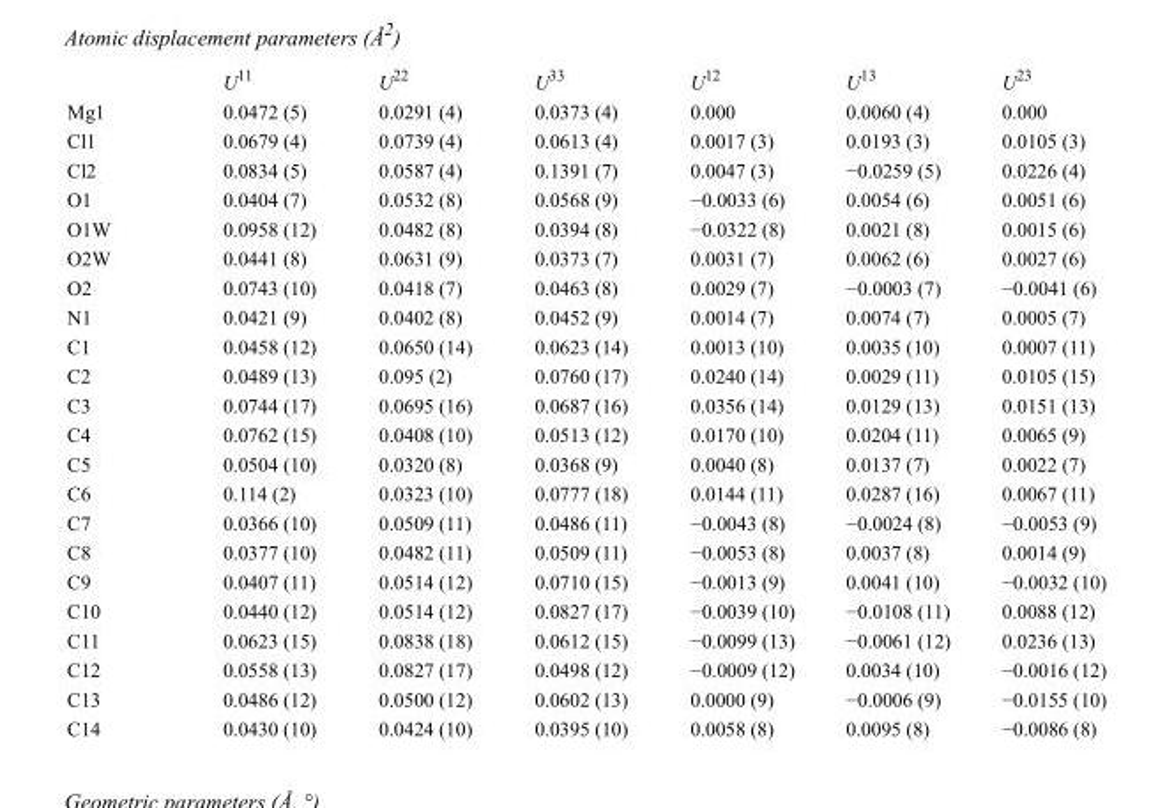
<table><thead><tr><td></td><td>U<sup>11</sup></td><td>U<sup>22</sup></td><td>U<sup>33</sup></td><td>U<sup>12</sup></td><td>U<sup>13</sup></td><td>U<sup>23</sup></td></tr></thead><tbody><tr><td>Mg1</td><td>0.0472 (5)</td><td>0.0291 (4)</td><td>0.0373 (4)</td><td>0.000</td><td>0.0060 (4)</td><td>0.000</td></tr><tr><td>Cl1</td><td>0.0679 (4)</td><td>0.0739 (4)</td><td>0.0613 (4)</td><td>0.0017 (3)</td><td>0.0193 (3)</td><td>0.0105 (3)</td></tr><tr><td>Cl2</td><td>0.0834 (5)</td><td>0.0587 (4)</td><td>0.1391 (7)</td><td>0.0047 (3)</td><td>−0.0259 (5)</td><td>0.0226 (4)</td></tr><tr><td>O1</td><td>0.0404 (7)</td><td>0.0532 (8)</td><td>0.0568 (9)</td><td>−0.0033 (6)</td><td>0.0054 (6)</td><td>0.0051 (6)</td></tr><tr><td>O1W</td><td>0.0958 (12)</td><td>0.0482 (8)</td><td>0.0394 (8)</td><td>−0.0322 (8)</td><td>0.0021 (8)</td><td>0.0015 (6)</td></tr><tr><td>O2W</td><td>0.0441 (8)</td><td>0.0631 (9)</td><td>0.0373 (7)</td><td>0.0031 (7)</td><td>0.0062 (6)</td><td>0.0027 (6)</td></tr><tr><td>O2</td><td>0.0743 (10)</td><td>0.0418 (7)</td><td>0.0463 (8)</td><td>0.0029 (7)</td><td>−0.0003 (7)</td><td>−0.0041 (6)</td></tr><tr><td>N1</td><td>0.0421 (9)</td><td>0.0402 (8)</td><td>0.0452 (9)</td><td>0.0014 (7)</td><td>0.0074 (7)</td><td>0.0005 (7)</td></tr><tr><td>C1</td><td>0.0458 (12)</td><td>0.0650 (14)</td><td>0.0623 (14)</td><td>0.0013 (10)</td><td>0.0035 (10)</td><td>0.0007 (11)</td></tr><tr><td>C2</td><td>0.0489 (13)</td><td>0.095 (2)</td><td>0.0760 (17)</td><td>0.0240 (14)</td><td>0.0029 (11)</td><td>0.0105 (15)</td></tr><tr><td>C3</td><td>0.0744 (17)</td><td>0.0695 (16)</td><td>0.0687 (16)</td><td>0.0356 (14)</td><td>0.0129 (13)</td><td>0.0151 (13)</td></tr><tr><td>C4</td><td>0.0762 (15)</td><td>0.0408 (10)</td><td>0.0513 (12)</td><td>0.0170 (10)</td><td>0.0204 (11)</td><td>0.0065 (9)</td></tr><tr><td>C5</td><td>0.0504 (10)</td><td>0.0320 (8)</td><td>0.0368 (9)</td><td>0.0040 (8)</td><td>0.0137 (7)</td><td>0.0022 (7)</td></tr><tr><td>C6</td><td>0.114 (2)</td><td>0.0323 (10)</td><td>0.0777 (18)</td><td>0.0144 (11)</td><td>0.0287 (16)</td><td>0.0067 (11)</td></tr><tr><td>C7</td><td>0.0366 (10)</td><td>0.0509 (11)</td><td>0.0486 (11)</td><td>−0.0043 (8)</td><td>−0.0024 (8)</td><td>−0.0053 (9)</td></tr><tr><td>C8</td><td>0.0377 (10)</td><td>0.0482 (11)</td><td>0.0509 (11)</td><td>−0.0053 (8)</td><td>0.0037 (8)</td><td>0.0014 (9)</td></tr><tr><td>C9</td><td>0.0407 (11)</td><td>0.0514 (12)</td><td>0.0710 (15)</td><td>−0.0013 (9)</td><td>0.0041 (10)</td><td>−0.0032 (10)</td></tr><tr><td>C10</td><td>0.0440 (12)</td><td>0.0514 (12)</td><td>0.0827 (17)</td><td>−0.0039 (10)</td><td>−0.0108 (11)</td><td>0.0088 (12)</td></tr><tr><td>C11</td><td>0.0623 (15)</td><td>0.0838 (18)</td><td>0.0612 (15)</td><td>−0.0099 (13)</td><td>−0.0061 (12)</td><td>0.0236 (13)</td></tr><tr><td>C12</td><td>0.0558 (13)</td><td>0.0827 (17)</td><td>0.0498 (12)</td><td>−0.0009 (12)</td><td>0.0034 (10)</td><td>−0.0016 (12)</td></tr><tr><td>C13</td><td>0.0486 (12)</td><td>0.0500 (12)</td><td>0.0602 (13)</td><td>0.0000 (9)</td><td>−0.0006 (9)</td><td>−0.0155 (10)</td></tr><tr><td>C14</td><td>0.0430 (10)</td><td>0.0424 (10)</td><td>0.0395 (10)</td><td>0.0058 (8)</td><td>0.0095 (8)</td><td>−0.0086 (8)</td></tr></tbody></table>